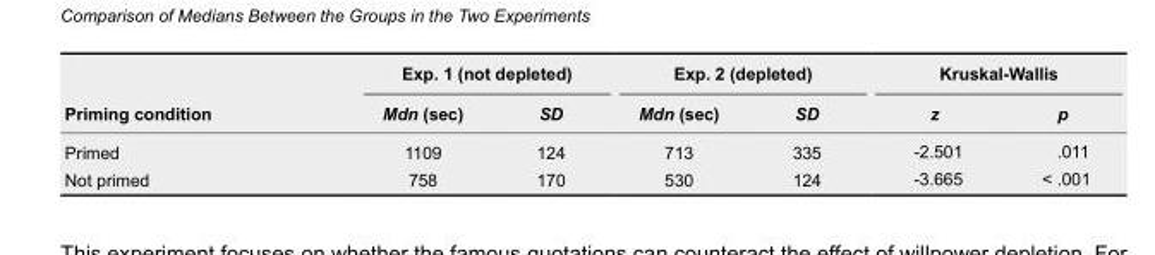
<table><thead><tr><td rowspan="2">Priming condition</td><td colspan="2">Exp. 1 (not depleted)</td><td colspan="2">Exp. 2 (depleted)</td><td colspan="2">Kruskal-Wallis</td></tr><tr><td>Mdn (sec)</td><td>SD</td><td>Mdn (sec)</td><td>SD</td><td>z</td><td>p</td></tr></thead><tbody><tr><td>Primed</td><td>1109</td><td>124</td><td>713</td><td>335</td><td>-2.501</td><td>.011</td></tr><tr><td>Not primed</td><td>758</td><td>170</td><td>530</td><td>124</td><td>-3.665</td><td>&lt; .001</td></tr></tbody></table>